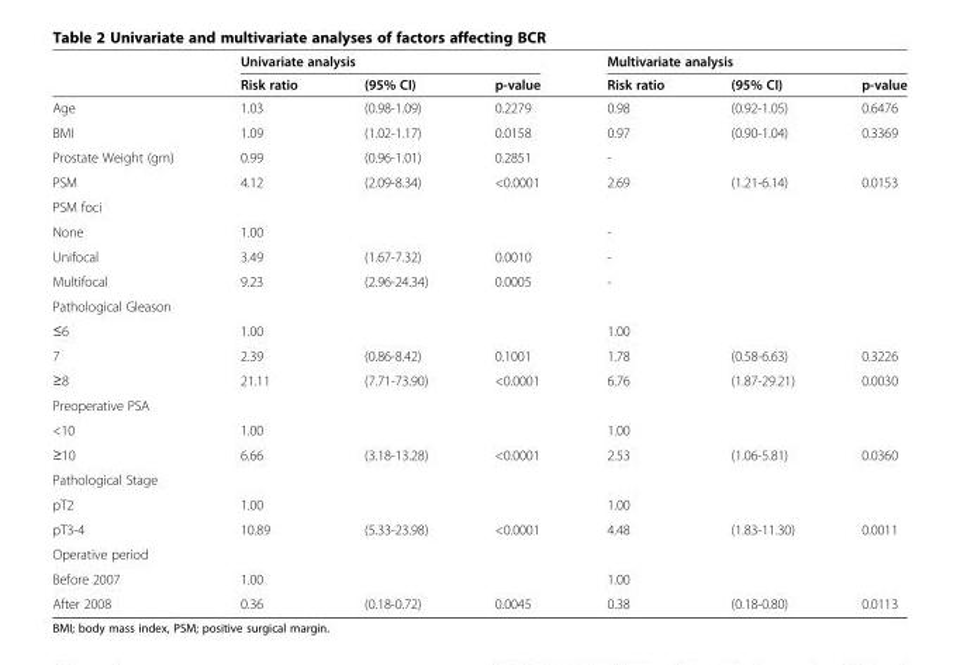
<table><thead><tr><td rowspan="2"></td><td colspan="3">Univariate analysis</td><td colspan="3">Multivariate analysis</td></tr><tr><td>Risk ratio</td><td>(95% CI)</td><td>p-value</td><td>Risk ratio</td><td>(95% CI)</td><td>p-value</td></tr></thead><tbody><tr><td>Age</td><td>1.03</td><td>(0.98-1.09)</td><td>0.2279</td><td>0.98</td><td>(0.92-1.05)</td><td>0.6476</td></tr><tr><td>BMI</td><td>1.09</td><td>(1.02-1.17)</td><td>0.0158</td><td>0.97</td><td>(0.90-1.04)</td><td>0.3369</td></tr><tr><td>Prostate Weight (gm)</td><td>0.99</td><td>(0.96-1.01)</td><td>0.2851</td><td>-</td><td></td><td></td></tr><tr><td>PSM</td><td>4.12</td><td>(2.09-8.34)</td><td>&lt;0.0001</td><td>2.69</td><td>(1.21-6.14)</td><td>0.0153</td></tr><tr><td colspan="7">PSM foci</td></tr><tr><td>None</td><td>1.00</td><td></td><td></td><td>-</td><td></td><td></td></tr><tr><td>Unifocal</td><td>3.49</td><td>(1.67-7.32)</td><td>0.0010</td><td>-</td><td></td><td></td></tr><tr><td>Multifocal</td><td>9.23</td><td>(2.96-24.34)</td><td>0.0005</td><td>-</td><td></td><td></td></tr><tr><td colspan="7">Pathological Gleason</td></tr><tr><td>≤6</td><td>1.00</td><td></td><td></td><td>1.00</td><td></td><td></td></tr><tr><td>7</td><td>2.39</td><td>(0.86-8.42)</td><td>0.1001</td><td>1.78</td><td>(0.58-6.63)</td><td>0.3226</td></tr><tr><td>≥8</td><td>21.11</td><td>(7.71-73.90)</td><td>&lt;0.0001</td><td>6.76</td><td>(1.87-29.21)</td><td>0.0030</td></tr><tr><td colspan="7">Preoperative PSA</td></tr><tr><td>&lt;10</td><td>1.00</td><td></td><td></td><td>1.00</td><td></td><td></td></tr><tr><td>≥10</td><td>6.66</td><td>(3.18-13.28)</td><td>&lt;0.0001</td><td>2.53</td><td>(1.06-5.81)</td><td>0.0360</td></tr><tr><td colspan="7">Pathological Stage</td></tr><tr><td>pT2</td><td>1.00</td><td></td><td></td><td>1.00</td><td></td><td></td></tr><tr><td>pT3-4</td><td>10.89</td><td>(5.33-23.98)</td><td>&lt;0.0001</td><td>4.48</td><td>(1.83-11.30)</td><td>0.0011</td></tr><tr><td colspan="7">Operative period</td></tr><tr><td>Before 2007</td><td>1.00</td><td></td><td></td><td>1.00</td><td></td><td></td></tr><tr><td>After 2008</td><td>0.36</td><td>(0.18-0.72)</td><td>0.0045</td><td>0.38</td><td>(0.18-0.80)</td><td>0.0113</td></tr></tbody></table>